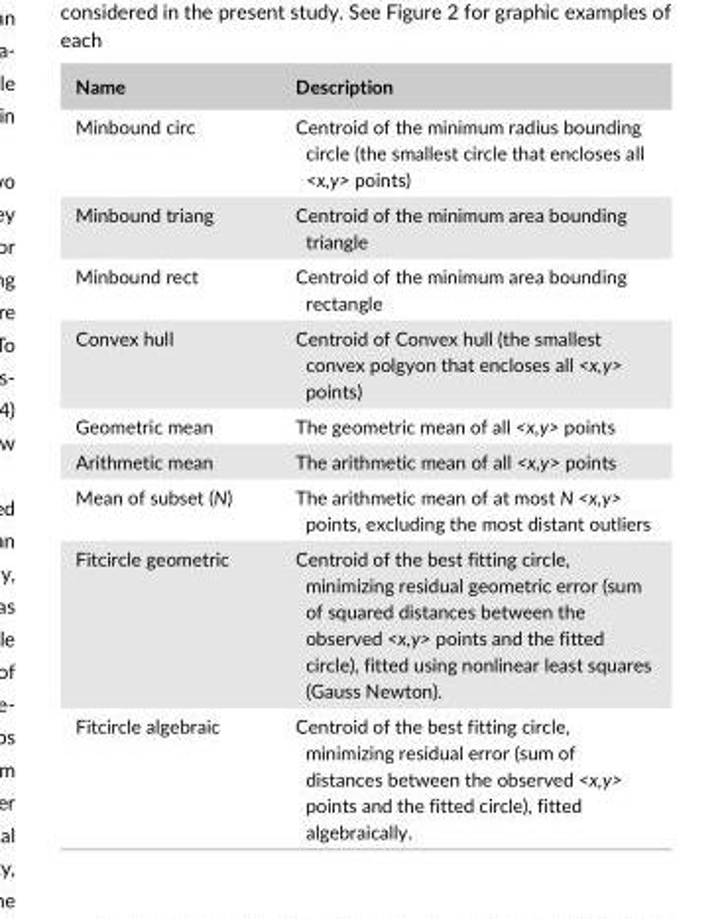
<table><thead><tr><td>Name</td><td>Description</td></tr></thead><tbody><tr><td>Minbound circ</td><td>Centroid of the minimum radius bounding circle (the smallest circle that encloses all &lt;x,y&gt; points)</td></tr><tr><td>Minbound triang</td><td>Centroid of the minimum area bounding triangle</td></tr><tr><td>Minbound rect</td><td>Centroid of the minimum area bounding rectangle</td></tr><tr><td>Convex hull</td><td>Centroid of Convex hull (the smallest convex polgyon that encloses all &lt;x,y&gt; points)</td></tr><tr><td>Geometric mean</td><td>The geometric mean of all &lt;x,y&gt; points</td></tr><tr><td>Arithmetic mean</td><td>The arithmetic mean of all &lt;x,y&gt; points</td></tr><tr><td>Mean of subset (N)</td><td>The arithmetic mean of at most N &lt;x,y&gt; points, excluding the most distant outliers</td></tr><tr><td>Fitcircle geometric</td><td>Centroid of the best fitting circle, minimizing residual geometric error (sum of squared distances between the observed &lt;x,y&gt; points and the fitted circle), fitted using nonlinear least squares (Gauss Newton).</td></tr><tr><td>Fitcircle algebraic</td><td>Centroid of the best fitting circle, minimizing residual error (sum of distances between the observed &lt;x,y&gt; points and the fitted circle), fitted algebraically.</td></tr></tbody></table>